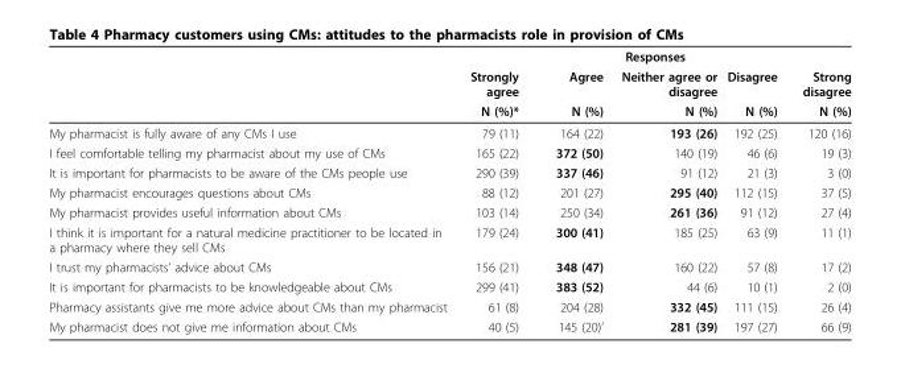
<table><thead><tr><td rowspan="3"></td><td colspan="5">Responses</td></tr><tr><td rowspan="2">Strongly agree N (%)*</td><td rowspan="2">Agree N (%)</td><td rowspan="2">Neither agree or disagree N (%)</td><td rowspan="2">Disagree N (%)</td><td rowspan="2">Strong disagree N (%)</td></tr><tr></tr></thead><tbody><tr><td>My pharmacist is fully aware of any CMs I use</td><td>79 (11)</td><td>164 (22)</td><td>193 (26)</td><td>192 (25)</td><td>120 (16)</td></tr><tr><td>I feel comfortable telling my pharmacist about my use of CMs</td><td>165 (22)</td><td>372 (50)</td><td>140 (19)</td><td>46 (6)</td><td>19 (3)</td></tr><tr><td>It is important for pharmacists to be aware of the CMs people use</td><td>290 (39)</td><td>337 (46)</td><td>91 (12)</td><td>21 (3)</td><td>3 (0)</td></tr><tr><td>My pharmacist encourages questions about CMs</td><td>88 (12)</td><td>201 (27)</td><td>295 (40)</td><td>112 (15)</td><td>37 (5)</td></tr><tr><td>My pharmacist provides useful information about CMs</td><td>103 (14)</td><td>250 (34)</td><td>261 (36)</td><td>91 (12)</td><td>27 (4)</td></tr><tr><td>I think it is important for a natural medicine practitioner to be located in a pharmacy where they sell CMs</td><td>179 (24)</td><td>300 (41)</td><td>185 (25)</td><td>63 (9)</td><td>11 (1)</td></tr><tr><td>I trust my pharmacists’ advice about CMs</td><td>156 (21)</td><td>348 (47)</td><td>160 (22)</td><td>57 (8)</td><td>17 (2)</td></tr><tr><td>It is important for pharmacists to be knowledgeable about CMs</td><td>299 (41)</td><td>383 (52)</td><td>44 (6)</td><td>10 (1)</td><td>2 (0)</td></tr><tr><td>Pharmacy assistants give me more advice about CMs than my pharmacist</td><td>61 (8)</td><td>204 (28)</td><td>332 (45)</td><td>111 (15)</td><td>26 (4)</td></tr><tr><td>My pharmacist does not give me information about CMs</td><td>40 (5)</td><td>145 (20)’</td><td>281 (39)</td><td>197 (27)</td><td>66 (9)</td></tr></tbody></table>